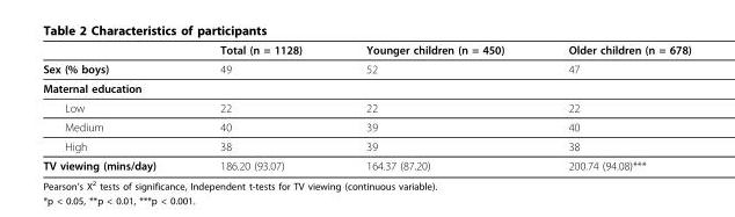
<table><thead><tr><td></td><td>Total (n = 1128)</td><td>Younger children (n = 450)</td><td>Older children (n = 678)</td></tr></thead><tbody><tr><td>Sex (% boys)</td><td>49</td><td>52</td><td>47</td></tr><tr><td colspan="4">Maternal education</td></tr><tr><td>Low</td><td>22</td><td>22</td><td>22</td></tr><tr><td>Medium</td><td>40</td><td>39</td><td>40</td></tr><tr><td>High</td><td>38</td><td>39</td><td>38</td></tr><tr><td>TV viewing (mins/day)</td><td>186.20 (93.07)</td><td>164.37 (87.20)</td><td>200.74 (94.08)***</td></tr></tbody></table>